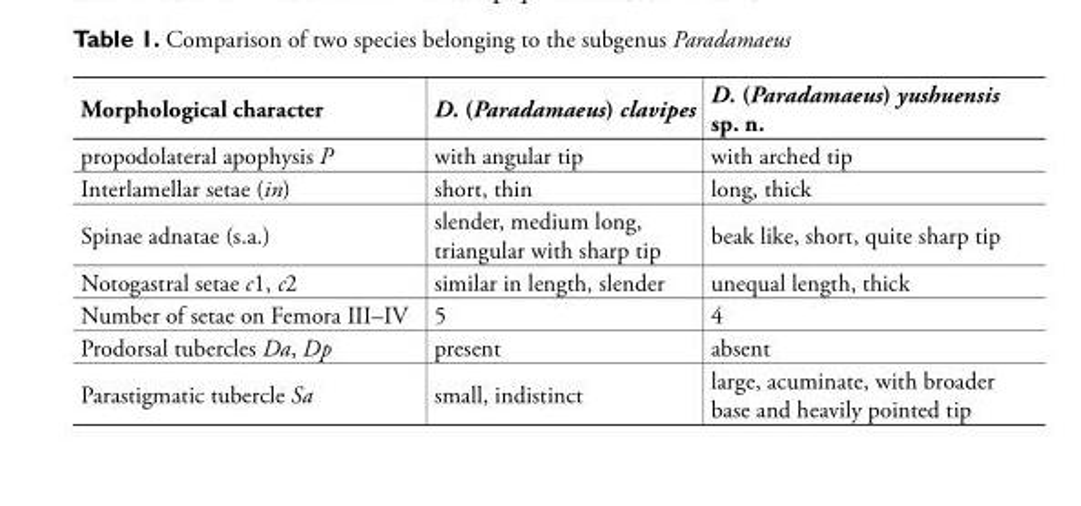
<table><thead><tr><td>Morphological character</td><td>D. (Paradamaeus) clavipes</td><td>D. (Paradamaeus) yushuensis sp. n.</td></tr></thead><tbody><tr><td>propodolateral apophysis P</td><td>with angular tip</td><td>with arched tip</td></tr><tr><td>Interlamellar setae (in)</td><td>short, thin</td><td>long, thick</td></tr><tr><td>Spinae adnatae (s.a.)</td><td>slender, medium long, triangular with sharp tip</td><td>beak like, short, quite sharp tip</td></tr><tr><td>Notogastral setae c1, c2</td><td>similar in length, slender</td><td>unequal length, thick</td></tr><tr><td>Number of setae on Femora III–IV</td><td>5</td><td>4</td></tr><tr><td>Prodorsal tubercles Da, Dp</td><td>present</td><td>absent</td></tr><tr><td>Parastigmatic tubercle Sa</td><td>small, indistinct</td><td>large, acuminate, with broader base and heavily pointed tip</td></tr></tbody></table>